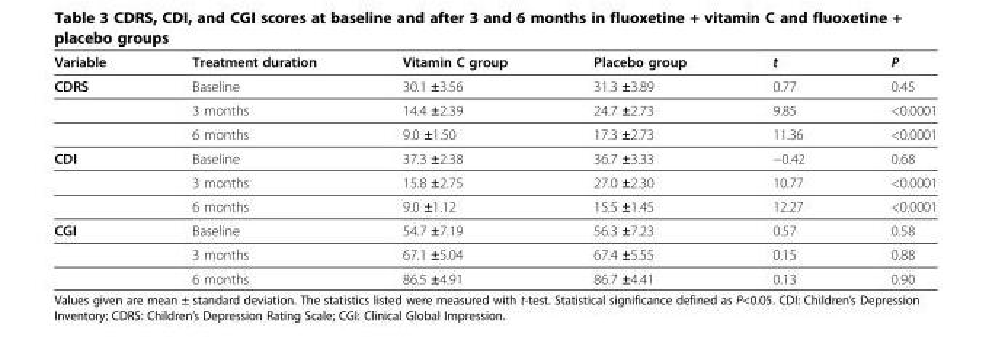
<table><thead><tr><td>Variable</td><td>Treatment duration</td><td>Vitamin C group</td><td>Placebo group</td><td>t</td><td>P</td></tr></thead><tbody><tr><td rowspan="3">CDRS</td><td>Baseline</td><td>30.1 ±3.56</td><td>31.3 ±3.89</td><td>0.77</td><td>0.45</td></tr><tr><td>3 months</td><td>14.4 ±2.39</td><td>24.7 ±2.73</td><td>9.85</td><td>&lt;0.0001</td></tr><tr><td>6 months</td><td>9.0 ±1.50</td><td>17.3 ±2.73</td><td>11.36</td><td>&lt;0.0001</td></tr><tr><td rowspan="3">CDI</td><td>Baseline</td><td>37.3 ±2.38</td><td>36.7 ±3.33</td><td>−0.42</td><td>0.68</td></tr><tr><td>3 months</td><td>15.8 ±2.75</td><td>27.0 ±2.30</td><td>10.77</td><td>&lt;0.0001</td></tr><tr><td>6 months</td><td>9.0 ±1.12</td><td>15.5 ±1.45</td><td>12.27</td><td>&lt;0.0001</td></tr><tr><td rowspan="3">CGI</td><td>Baseline</td><td>54.7 ±7.19</td><td>56.3 ±7.23</td><td>0.57</td><td>0.58</td></tr><tr><td>3 months</td><td>67.1 ±5.04</td><td>67.4 ±5.55</td><td>0.15</td><td>0.88</td></tr><tr><td>6 months</td><td>86.5 ±4.91</td><td>86.7 ±4.41</td><td>0.13</td><td>0.90</td></tr></tbody></table>